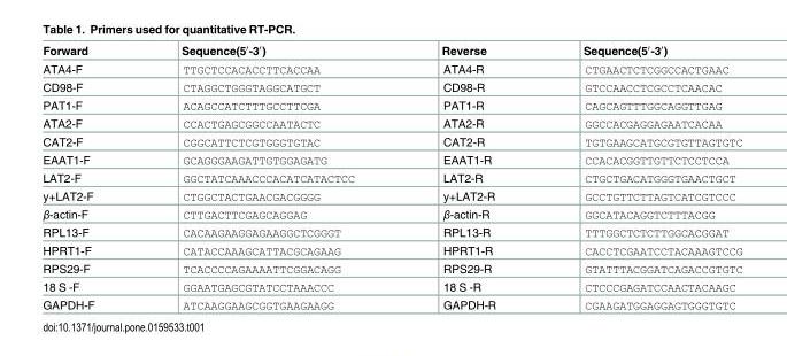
<table><thead><tr><td>Forward</td><td>Sequence(5′-3′)</td><td>Reverse</td><td>Sequence(5′-3′)</td></tr></thead><tbody><tr><td>ATA4-F</td><td>TTGCTCCACACCTTCACCAA</td><td>ATA4-R</td><td>CTGAACTCTCGGCCACTGAAC</td></tr><tr><td>CD98-F</td><td>CTAGGCTGGGTAGGCATGCT</td><td>CD98-R</td><td>GTCCAACCTCGCCTCAACAC</td></tr><tr><td>PAT1-F</td><td>ACAGCCATCTTTGCCTTCGA</td><td>PAT1-R</td><td>CAGCAGTTTGGCAGGTTGAG</td></tr><tr><td>ATA2-F</td><td>CCACTGAGCGGCCAATACTC</td><td>ATA2-R</td><td>GGCCACGAGGAGAATCACAA</td></tr><tr><td>CAT2-F</td><td>CGGCATTCTCGTGGGTGTAC</td><td>CAT2-R</td><td>TGTGAAGCATGCGTGTTAGTGTC</td></tr><tr><td>EAAT1-F</td><td>GCAGGGAAGATTGTGGAGATG</td><td>EAAT1-R</td><td>CCACACGGTTGTTCTCCTCCA</td></tr><tr><td>LAT2-F</td><td>GGCTATCAAACCCACATCATACTCC</td><td>LAT2-R</td><td>CTGCTGACATGGGTGAACTGCT</td></tr><tr><td>y+LAT2-F</td><td>CTGGCTACTGAACGACGGGG</td><td>y+LAT2-R</td><td>GCCTGTTCTTAGTCATCGTCCC</td></tr><tr><td>β-actin-F</td><td>CTTGACTTCGAGCAGGAG</td><td>β-actin-R</td><td>GGCATACAGGTCTTTACGG</td></tr><tr><td>RPL13-F</td><td>CACAAGAAGGAGAAGGCTCGGGT</td><td>RPL13-R</td><td>TTTGGCTCTCTTGGCACGGAT</td></tr><tr><td>HPRT1-F</td><td>CATACCAAAGCATTACGCAGAAG</td><td>HPRT1-R</td><td>CACCTCGAATCCTACAAAGTCCG</td></tr><tr><td>RPS29-F</td><td>TCACCCCAGAAAATTCGGACAGG</td><td>RPS29-R</td><td>GTATTTACGGATCAGACCGTGTC</td></tr><tr><td>18 S -F</td><td>GGAATGAGCGTATCCTAAACCC</td><td>18 S -R</td><td>CTCCCGAGATCCAACTACAAGC</td></tr><tr><td>GAPDH-F</td><td>ATCAAGGAAGCGGTGAAGAAGG</td><td>GAPDH-R</td><td>CGAAGATGGAGGAGTGGGTGTC</td></tr></tbody></table>